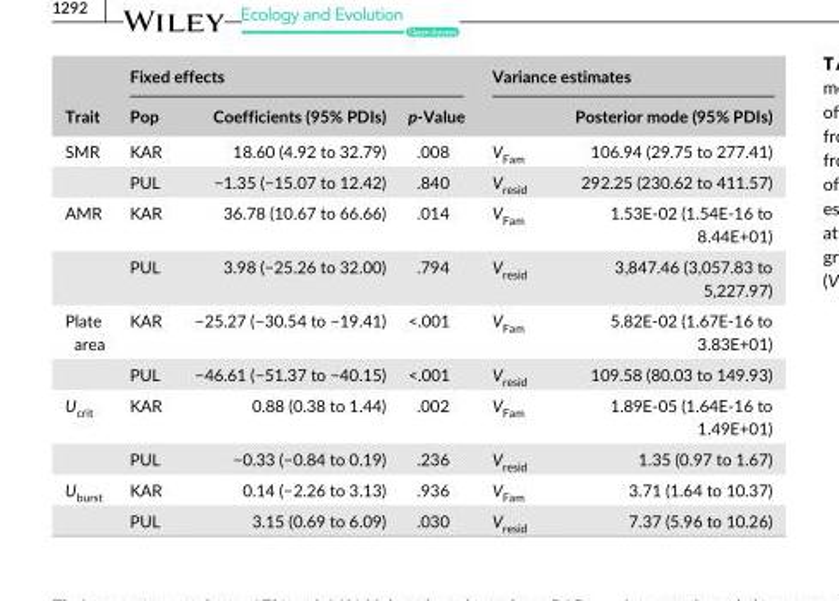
<table><thead><tr><td rowspan="2">Trait</td><td colspan="3">Fixed effects</td><td colspan="2">Variance estimates</td></tr><tr><td>Pop</td><td>Coefficients (95% PDIs)</td><td>p- Value</td><td></td><td>Posterior mode (95% PDIs)</td></tr></thead><tbody><tr><td rowspan="2">SMR</td><td>KAR</td><td>18.60 (4.92 to 32.79)</td><td>.008</td><td>V<sub>Fam</sub></td><td>106.94 (29.75 to 277.41)</td></tr><tr><td>PUL</td><td>−1.35 (−15.07 to 12.42)</td><td>.840</td><td>V<sub>resid</sub></td><td>292.25 (230.62 to 411.57)</td></tr><tr><td rowspan="2">AMR</td><td>KAR</td><td>36.78 (10.67 to 66.66)</td><td>.014</td><td>V<sub>Fam</sub></td><td>1.53E- 02 (1.54E- 16 to 8.44E+01)</td></tr><tr><td>PUL</td><td>3.98 (−25.26 to 32.00)</td><td>.794</td><td>V<sub>resid</sub></td><td>3,847.46 (3,057.83 to 5,227.97)</td></tr><tr><td rowspan="2">Plate area</td><td>KAR</td><td>−25.27 (−30.54 to −19.41)</td><td>&lt;.001</td><td>V<sub>Fam</sub></td><td>5.82E- 02 (1.67E- 16 to 3.83E+01)</td></tr><tr><td>PUL</td><td>−46.61 (−51.37 to −40.15)</td><td>&lt;.001</td><td>V<sub>resid</sub></td><td>109.58 (80.03 to 149.93)</td></tr><tr><td rowspan="2">U<sub>crit</sub></td><td>KAR</td><td>0.88 (0.38 to 1.44)</td><td>.002</td><td>V<sub>Fam</sub></td><td>1.89E- 05 (1.64E- 16 to 1.49E+01)</td></tr><tr><td>PUL</td><td>−0.33 (−0.84 to 0.19)</td><td>.236</td><td>V<sub>resid</sub></td><td>1.35 (0.97 to 1.67)</td></tr><tr><td rowspan="2">U<sub>burst</sub></td><td>KAR</td><td>0.14 (−2.26 to 3.13)</td><td>.936</td><td>V<sub>Fam</sub></td><td>3.71 (1.64 to 10.37)</td></tr><tr><td>PUL</td><td>3.15 (0.69 to 6.09)</td><td>.030</td><td>V<sub>resid</sub></td><td>7.37 (5.96 to 10.26)</td></tr></tbody></table>